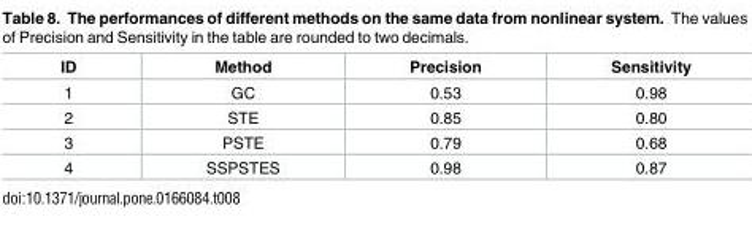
<table><thead><tr><td>ID</td><td>Method</td><td>Precision</td><td>Sensitivity</td></tr></thead><tbody><tr><td>1</td><td>GC</td><td>0.53</td><td>0.98</td></tr><tr><td>2</td><td>STE</td><td>0.85</td><td>0.80</td></tr><tr><td>3</td><td>PSTE</td><td>0.79</td><td>0.68</td></tr><tr><td>4</td><td>SSPSTES</td><td>0.98</td><td>0.87</td></tr></tbody></table>